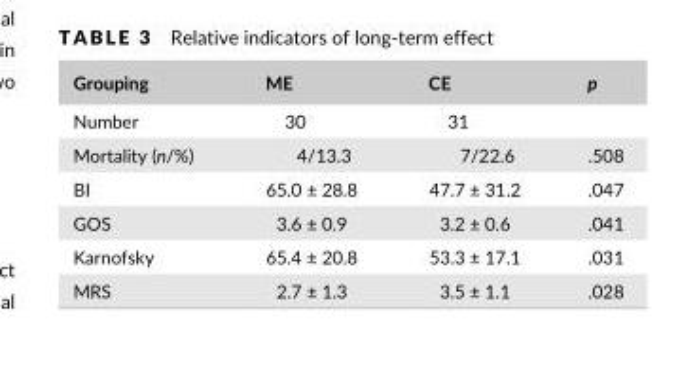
<table><thead><tr><td>Grouping</td><td>ME</td><td>CE</td><td>p</td></tr></thead><tbody><tr><td>Number</td><td>30</td><td>31</td><td></td></tr><tr><td>Mortality (n/%)</td><td>4/13.3</td><td>7/22.6</td><td>.508</td></tr><tr><td>BI</td><td>65.0 ± 28.8</td><td>47.7 ± 31.2</td><td>.047</td></tr><tr><td>GOS</td><td>3.6 ± 0.9</td><td>3.2 ± 0.6</td><td>.041</td></tr><tr><td>Karnofsky</td><td>65.4 ± 20.8</td><td>53.3 ± 17.1</td><td>.031</td></tr><tr><td>MRS</td><td>2.7 ± 1.3</td><td>3.5 ± 1.1</td><td>.028</td></tr></tbody></table>